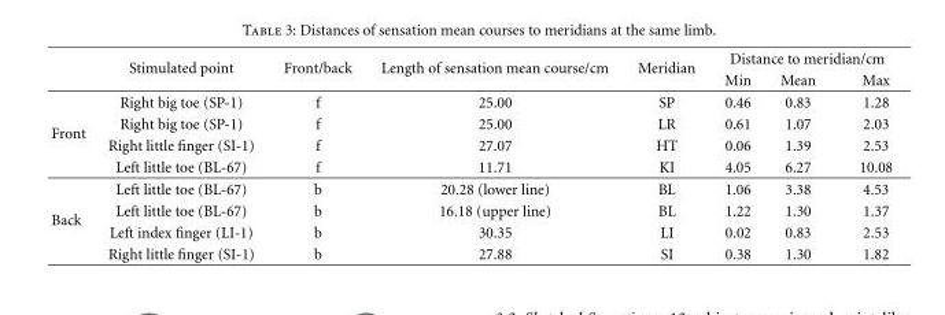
<table><thead><tr><td rowspan="2"></td><td rowspan="2">Stimulated point</td><td rowspan="2">Front/back</td><td rowspan="2">Length of sensation mean course/cm</td><td rowspan="2">Meridian</td><td colspan="3">Distance to meridian/cm</td></tr><tr><td>Min</td><td>Mean</td><td>Max</td></tr></thead><tbody><tr><td rowspan="4">Front</td><td>Right big toe (SP-1)</td><td>f</td><td>25.00</td><td>SP</td><td>0.46</td><td>0.83</td><td>1.28</td></tr><tr><td>Right big toe (SP-1)</td><td>f</td><td>25.00</td><td>LR</td><td>0.61</td><td>1.07</td><td>2.03</td></tr><tr><td>Right little finger (SI-1)</td><td>f</td><td>27.07</td><td>HT</td><td>0.06</td><td>1.39</td><td>2.53</td></tr><tr><td>Left little toe (BL-67)</td><td>f</td><td>11.71</td><td>KI</td><td>4.05</td><td>6.27</td><td>10.08</td></tr><tr><td rowspan="4">Back</td><td>Left little toe (BL-67)</td><td>b</td><td>20.28 (lower line)</td><td>BL</td><td>1.06</td><td>3.38</td><td>4.53</td></tr><tr><td>Left little toe (BL-67)</td><td>b</td><td>16.18 (upper line)</td><td>BL</td><td>1.22</td><td>1.30</td><td>1.37</td></tr><tr><td>Left index finger (LI-1)</td><td>b</td><td>30.35</td><td>LI</td><td>0.02</td><td>0.83</td><td>2.53</td></tr><tr><td>Right little finger (SI-1)</td><td>b</td><td>27.88</td><td>SI</td><td>0.38</td><td>1.30</td><td>1.82</td></tr></tbody></table>